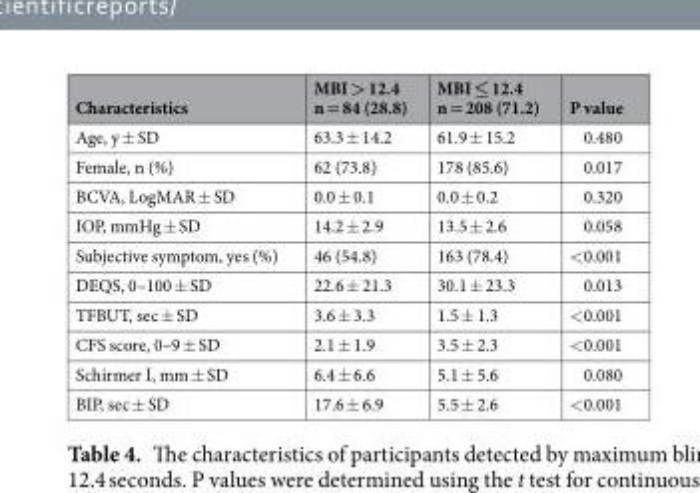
<table><thead><tr><td>Characteristics</td><td>MBI &gt; 12.4 n = 84 (28.8)</td><td>MBI ≤ 12.4 n = 208 (71.2)</td><td>P value</td></tr></thead><tbody><tr><td>Age, y ± SD</td><td>63.3 ± 14.2</td><td>61.9 ± 15.2</td><td>0.480</td></tr><tr><td>Female, n (%)</td><td>62 (73.8)</td><td>178 (85.6)</td><td>0.017</td></tr><tr><td>BCVA, LogMAR ± SD</td><td>0.0 ± 0.1</td><td>0.0 ± 0.2</td><td>0.320</td></tr><tr><td>IOP, mmHg ± SD</td><td>14.2 ± 2.9</td><td>13.5 ± 2.6</td><td>0.058</td></tr><tr><td>Subjective symptom, yes (%)</td><td>46 (54.8)</td><td>163 (78.4)</td><td>&lt;0.001</td></tr><tr><td>DEQS, 0–100 ± SD</td><td>22.6 ± 21.3</td><td>30.1 ± 23.3</td><td>0.013</td></tr><tr><td>TFBUT, sec ± SD</td><td>3.6 ± 3.3</td><td>1.5 ± 1.3</td><td>&lt;0.001</td></tr><tr><td>CFS score, 0–9 ± SD</td><td>2.1 ± 1.9</td><td>3.5 ± 2.3</td><td>&lt;0.001</td></tr><tr><td>Schirmer Ι, mm ± SD</td><td>6.4 ± 6.6</td><td>5.1 ± 5.6</td><td>0.080</td></tr><tr><td>BIP, sec ± SD</td><td>17.6 ± 6.9</td><td>5.5 ± 2.6</td><td>&lt;0.001</td></tr></tbody></table>